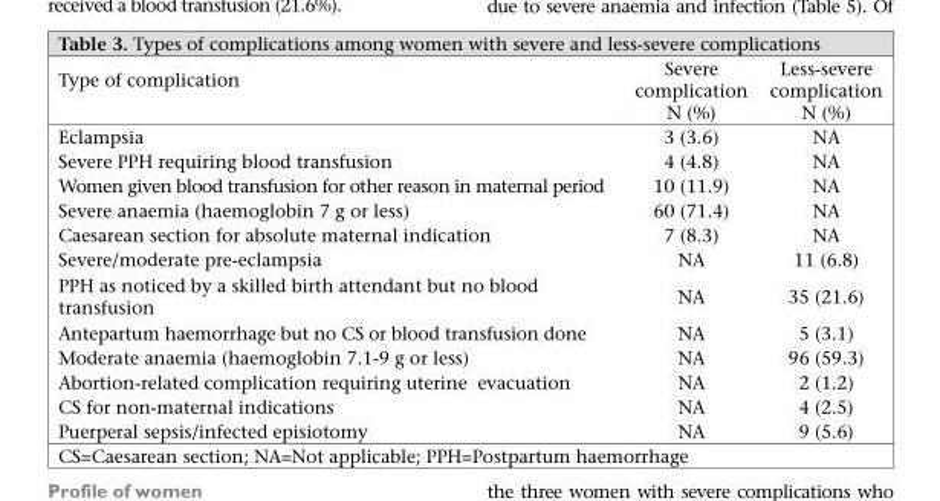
<table><thead><tr><td>Type of complication</td><td>Severe complication N (%)</td><td>Less-severe complication N (%)</td></tr></thead><tbody><tr><td>Eclampsia</td><td>3 (3.6)</td><td>NA</td></tr><tr><td>Severe PPH requiring blood transfusion</td><td>4 (4.8)</td><td>NA</td></tr><tr><td>Women given blood transfusion for other reason in maternal period</td><td>10 (11.9)</td><td>NA</td></tr><tr><td>Severe anaemia (haemoglobin 7 g or less)</td><td>60 (71.4)</td><td>NA</td></tr><tr><td>Caesarean section for absolute maternal indication</td><td>7 (8.3)</td><td>NA</td></tr><tr><td>Severe/moderate pre-eclampsia</td><td>NA</td><td>11 (6.8)</td></tr><tr><td>PPH as noticed by a skilled birth attendant but no blood transfusion</td><td>NA</td><td>35 (21.6)</td></tr><tr><td>Antepartum haemorrhage but no CS or blood transfusion done</td><td>NA</td><td>5 (3.1)</td></tr><tr><td>Moderate anaemia (haemoglobin 7.1-9 g or less)</td><td>NA</td><td>96 (59.3)</td></tr><tr><td>Abortion-related complication requiring uterine evacuation</td><td>NA</td><td>2 (1.2)</td></tr><tr><td>CS for non-maternal indications</td><td>NA</td><td>4 (2.5)</td></tr><tr><td>Puerperal sepsis/infected episiotomy</td><td>NA</td><td>9 (5.6)</td></tr></tbody></table>